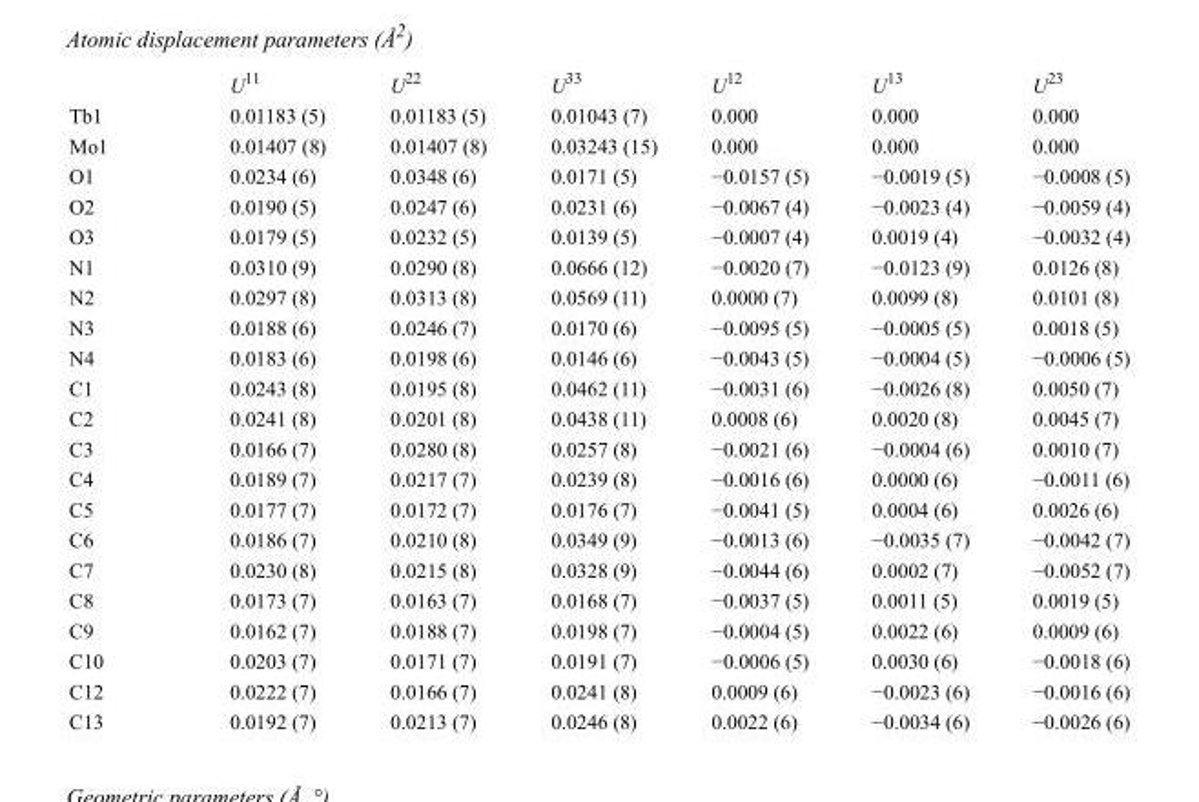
<table><thead><tr><td></td><td>U<sup>11</sup></td><td>U<sup>22</sup></td><td>U<sup>33</sup></td><td>U<sup>12</sup></td><td>U<sup>13</sup></td><td>U<sup>23</sup></td></tr></thead><tbody><tr><td>Tb1</td><td>0.01183 (5)</td><td>0.01183 (5)</td><td>0.01043 (7)</td><td>0.000</td><td>0.000</td><td>0.000</td></tr><tr><td>Mo1</td><td>0.01407 (8)</td><td>0.01407 (8)</td><td>0.03243 (15)</td><td>0.000</td><td>0.000</td><td>0.000</td></tr><tr><td>O1</td><td>0.0234 (6)</td><td>0.0348 (6)</td><td>0.0171 (5)</td><td>−0.0157 (5)</td><td>−0.0019 (5)</td><td>−0.0008 (5)</td></tr><tr><td>O2</td><td>0.0190 (5)</td><td>0.0247 (6)</td><td>0.0231 (6)</td><td>−0.0067 (4)</td><td>−0.0023 (4)</td><td>−0.0059 (4)</td></tr><tr><td>O3</td><td>0.0179 (5)</td><td>0.0232 (5)</td><td>0.0139 (5)</td><td>−0.0007 (4)</td><td>0.0019 (4)</td><td>−0.0032 (4)</td></tr><tr><td>N1</td><td>0.0310 (9)</td><td>0.0290 (8)</td><td>0.0666 (12)</td><td>−0.0020 (7)</td><td>−0.0123 (9)</td><td>0.0126 (8)</td></tr><tr><td>N2</td><td>0.0297 (8)</td><td>0.0313 (8)</td><td>0.0569 (11)</td><td>0.0000 (7)</td><td>0.0099 (8)</td><td>0.0101 (8)</td></tr><tr><td>N3</td><td>0.0188 (6)</td><td>0.0246 (7)</td><td>0.0170 (6)</td><td>−0.0095 (5)</td><td>−0.0005 (5)</td><td>0.0018 (5)</td></tr><tr><td>N4</td><td>0.0183 (6)</td><td>0.0198 (6)</td><td>0.0146 (6)</td><td>−0.0043 (5)</td><td>−0.0004 (5)</td><td>−0.0006 (5)</td></tr><tr><td>C1</td><td>0.0243 (8)</td><td>0.0195 (8)</td><td>0.0462 (11)</td><td>−0.0031 (6)</td><td>−0.0026 (8)</td><td>0.0050 (7)</td></tr><tr><td>C2</td><td>0.0241 (8)</td><td>0.0201 (8)</td><td>0.0438 (11)</td><td>0.0008 (6)</td><td>0.0020 (8)</td><td>0.0045 (7)</td></tr><tr><td>C3</td><td>0.0166 (7)</td><td>0.0280 (8)</td><td>0.0257 (8)</td><td>−0.0021 (6)</td><td>−0.0004 (6)</td><td>0.0010 (7)</td></tr><tr><td>C4</td><td>0.0189 (7)</td><td>0.0217 (7)</td><td>0.0239 (8)</td><td>−0.0016 (6)</td><td>0.0000 (6)</td><td>−0.0011 (6)</td></tr><tr><td>C5</td><td>0.0177 (7)</td><td>0.0172 (7)</td><td>0.0176 (7)</td><td>−0.0041 (5)</td><td>0.0004 (6)</td><td>0.0026 (6)</td></tr><tr><td>C6</td><td>0.0186 (7)</td><td>0.0210 (8)</td><td>0.0349 (9)</td><td>−0.0013 (6)</td><td>−0.0035 (7)</td><td>−0.0042 (7)</td></tr><tr><td>C7</td><td>0.0230 (8)</td><td>0.0215 (8)</td><td>0.0328 (9)</td><td>−0.0044 (6)</td><td>0.0002 (7)</td><td>−0.0052 (7)</td></tr><tr><td>C8</td><td>0.0173 (7)</td><td>0.0163 (7)</td><td>0.0168 (7)</td><td>−0.0037 (5)</td><td>0.0011 (5)</td><td>0.0019 (5)</td></tr><tr><td>C9</td><td>0.0162 (7)</td><td>0.0188 (7)</td><td>0.0198 (7)</td><td>−0.0004 (5)</td><td>0.0022 (6)</td><td>0.0009 (6)</td></tr><tr><td>C10</td><td>0.0203 (7)</td><td>0.0171 (7)</td><td>0.0191 (7)</td><td>−0.0006 (5)</td><td>0.0030 (6)</td><td>−0.0018 (6)</td></tr><tr><td>C12</td><td>0.0222 (7)</td><td>0.0166 (7)</td><td>0.0241 (8)</td><td>0.0009 (6)</td><td>−0.0023 (6)</td><td>−0.0016 (6)</td></tr><tr><td>C13</td><td>0.0192 (7)</td><td>0.0213 (7)</td><td>0.0246 (8)</td><td>0.0022 (6)</td><td>−0.0034 (6)</td><td>−0.0026 (6)</td></tr></tbody></table>